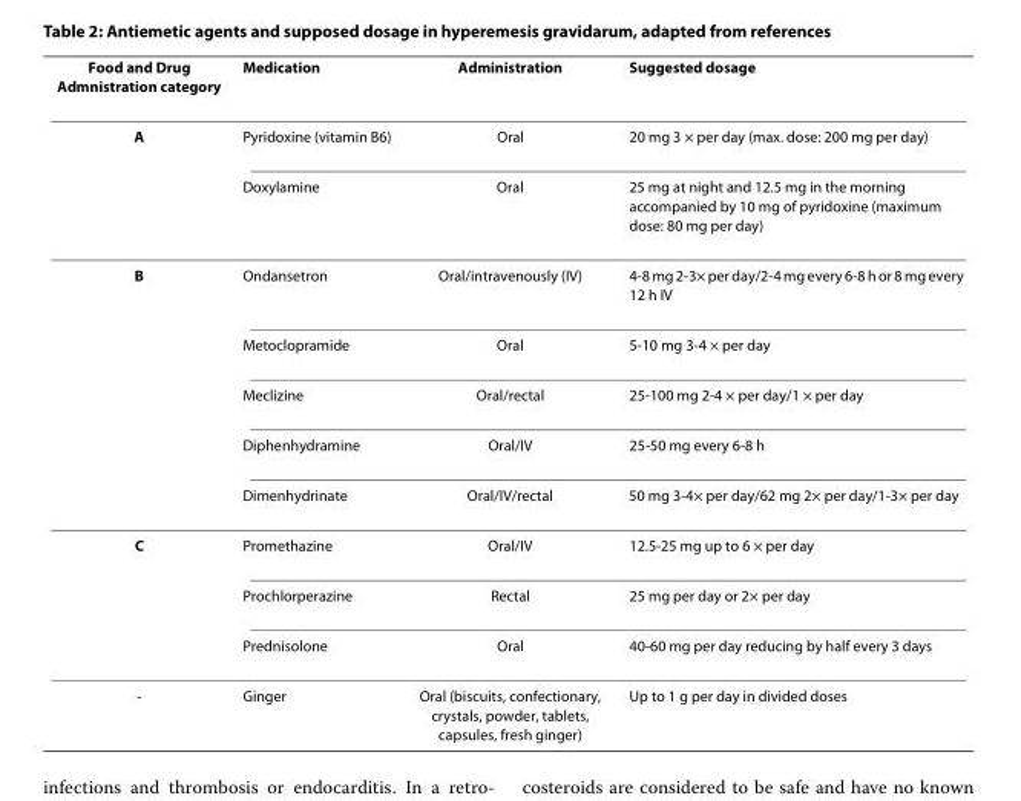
<table><thead><tr><td>Food and Drug Admnistration category</td><td>Medication</td><td>Administration</td><td>Suggested dosage</td></tr></thead><tbody><tr><td rowspan="2">A</td><td>Pyridoxine (vitamin B6)</td><td>Oral</td><td>20 mg 3 × per day (max. dose: 200 mg per day)</td></tr><tr><td>Doxylamine</td><td>Oral</td><td>25 mg at night and 12.5 mg in the morning accompanied by 10 mg of pyridoxine (maximum dose: 80 mg per day)</td></tr><tr><td rowspan="5">B</td><td>Ondansetron</td><td>Oral/intravenously (IV)</td><td>4-8 mg 2-3× per day/2-4 mg every 6-8 h or 8 mg every 12 h IV</td></tr><tr><td>Metoclopramide</td><td>Oral</td><td>5-10 mg 3-4 × per day</td></tr><tr><td>Meclizine</td><td>Oral/rectal</td><td>25-100 mg 2-4 × per day/1 × per day</td></tr><tr><td>Diphenhydramine</td><td>Oral/IV</td><td>25-50 mg every 6-8 h</td></tr><tr><td>Dimenhydrinate</td><td>Oral/IV/rectal</td><td>50 mg 3-4× per day/62 mg 2× per day/1-3× per day</td></tr><tr><td rowspan="3">C</td><td>Promethazine</td><td>Oral/IV</td><td>12.5-25 mg up to 6 × per day</td></tr><tr><td>Prochlorperazine</td><td>Rectal</td><td>25 mg per day or 2× per day</td></tr><tr><td>Prednisolone</td><td>Oral</td><td>40-60 mg per day reducing by half every 3 days</td></tr><tr><td>-</td><td>Ginger</td><td>Oral (biscuits, confectionary, crystals, powder, tablets, capsules, fresh ginger)</td><td>Up to 1 g per day in divided doses</td></tr></tbody></table>